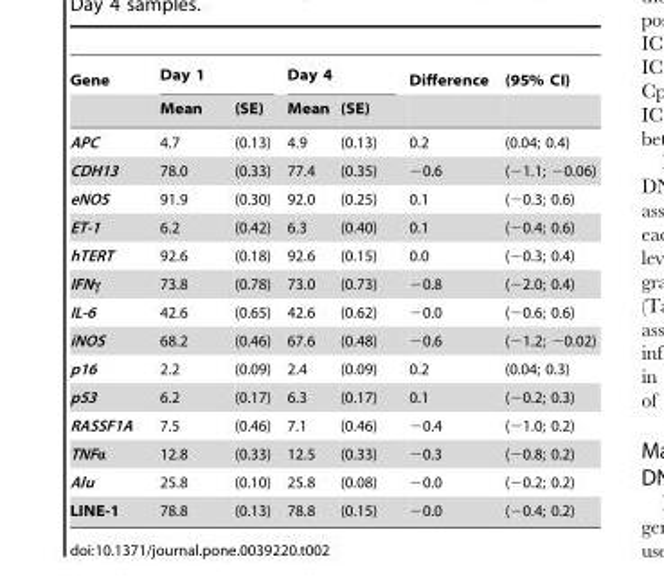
<table><thead><tr><td rowspan="2">Gene</td><td colspan="2">Day 1</td><td colspan="2">Day 4</td><td rowspan="2">Difference</td><td rowspan="2">(95% CI)</td></tr><tr><td>Mean</td><td>(SE)</td><td>Mean</td><td>(SE)</td></tr></thead><tbody><tr><td>APC</td><td>4.7</td><td>(0.13)</td><td>4.9</td><td>(0.13)</td><td>0.2</td><td>(0.04; 0.4)</td></tr><tr><td>CDH13</td><td>78.0</td><td>(0.33)</td><td>77.4</td><td>(0.35)</td><td>−0.6</td><td>(−1.1; −0.06)</td></tr><tr><td>eNOS</td><td>91.9</td><td>(0.30)</td><td>92.0</td><td>(0.25)</td><td>0.1</td><td>(−0.3; 0.6)</td></tr><tr><td>ET-1</td><td>6.2</td><td>(0.42)</td><td>6.3</td><td>(0.40)</td><td>0.1</td><td>(−0.4; 0.6)</td></tr><tr><td>hTERT</td><td>92.6</td><td>(0.18)</td><td>92.6</td><td>(0.15)</td><td>0.0</td><td>(−0.3; 0.4)</td></tr><tr><td>IFNγ</td><td>73.8</td><td>(0.78)</td><td>73.0</td><td>(0.73)</td><td>−0.8</td><td>(−2.0; 0.4)</td></tr><tr><td>IL-6</td><td>42.6</td><td>(0.65)</td><td>42.6</td><td>(0.62)</td><td>−0.0</td><td>(−0.6; 0.6)</td></tr><tr><td>iNOS</td><td>68.2</td><td>(0.46)</td><td>67.6</td><td>(0.48)</td><td>−0.6</td><td>(−1.2; −0.02)</td></tr><tr><td>p16</td><td>2.2</td><td>(0.09)</td><td>2.4</td><td>(0.09)</td><td>0.2</td><td>(0.04; 0.3)</td></tr><tr><td>p53</td><td>6.2</td><td>(0.17)</td><td>6.3</td><td>(0.17)</td><td>0.1</td><td>(−0.2; 0.3)</td></tr><tr><td>RASSF1A</td><td>7.5</td><td>(0.46)</td><td>7.1</td><td>(0.46)</td><td>−0.4</td><td>(−1.0; 0.2)</td></tr><tr><td>TNFα</td><td>12.8</td><td>(0.33)</td><td>12.5</td><td>(0.33)</td><td>−0.3</td><td>(−0.8; 0.2)</td></tr><tr><td>Alu</td><td>25.8</td><td>(0.10)</td><td>25.8</td><td>(0.08)</td><td>−0.0</td><td>(−0.2; 0.2)</td></tr><tr><td>LINE-1</td><td>78.8</td><td>(0.13)</td><td>78.8</td><td>(0.15)</td><td>−0.0</td><td>(−0.4; 0.2)</td></tr></tbody></table>